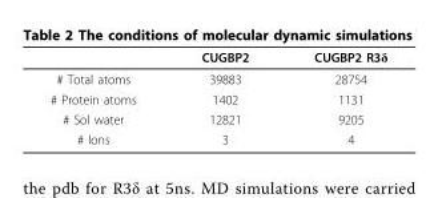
<table><thead><tr><td></td><td>CUGBP2</td><td>CUGBP2 R3δ</td></tr></thead><tbody><tr><td># Total atoms</td><td>39883</td><td>28754</td></tr><tr><td># Protein atoms</td><td>1402</td><td>1131</td></tr><tr><td># Sol water</td><td>12821</td><td>9205</td></tr><tr><td># Ions</td><td>3</td><td>4</td></tr></tbody></table>